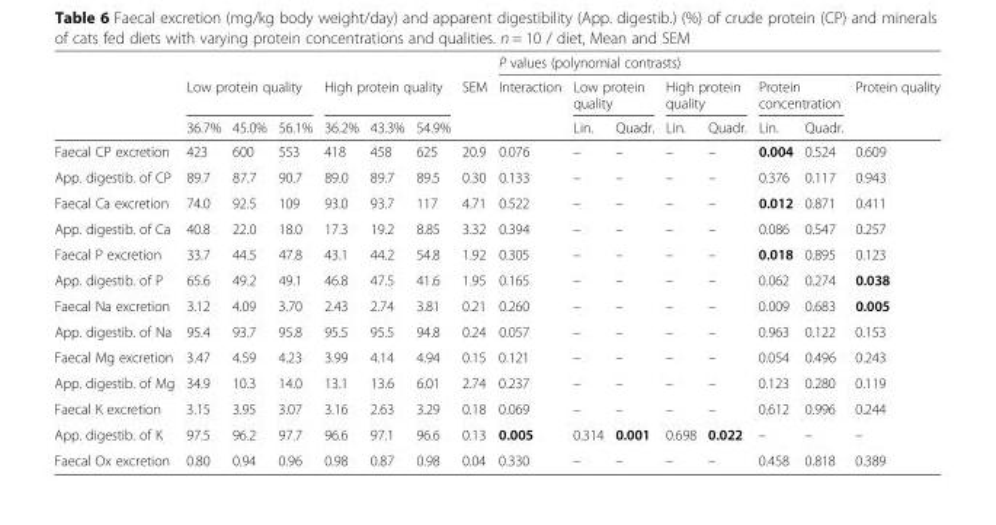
<table><thead><tr><td rowspan="3"></td><td></td><td></td><td></td><td></td><td></td><td></td><td rowspan="3">SEM</td><td colspan="8">P values (polynomial contrasts)</td></tr><tr><td colspan="3">Low protein quality</td><td colspan="3">High protein quality</td><td rowspan="2">Interaction</td><td colspan="2">Low protein quality</td><td colspan="2">High protein quality</td><td colspan="2">Protein concentration</td><td rowspan="2">Protein quality</td></tr><tr><td>36.7%</td><td>45.0%</td><td>56.1%</td><td>36.2%</td><td>43.3%</td><td>54.9%</td><td>Lin.</td><td>Quadr.</td><td>Lin.</td><td>Quadr.</td><td>Lin.</td><td>Quadr.</td></tr></thead><tbody><tr><td>Faecal CP excretion</td><td>423</td><td>600</td><td>553</td><td>418</td><td>458</td><td>625</td><td>20.9</td><td>0.076</td><td>–</td><td>–</td><td>–</td><td>–</td><td>0.004</td><td>0.524</td><td>0.609</td></tr><tr><td>App. digestib. of CP</td><td>89.7</td><td>87.7</td><td>90.7</td><td>89.0</td><td>89.7</td><td>89.5</td><td>0.30</td><td>0.133</td><td>–</td><td>–</td><td>–</td><td>–</td><td>0.376</td><td>0.117</td><td>0.943</td></tr><tr><td>Faecal Ca excretion</td><td>74.0</td><td>92.5</td><td>109</td><td>93.0</td><td>93.7</td><td>117</td><td>4.71</td><td>0.522</td><td>–</td><td>–</td><td>–</td><td>–</td><td>0.012</td><td>0.871</td><td>0.411</td></tr><tr><td>App. digestib. of Ca</td><td>40.8</td><td>22.0</td><td>18.0</td><td>17.3</td><td>19.2</td><td>8.85</td><td>3.32</td><td>0.394</td><td>–</td><td>–</td><td>–</td><td>–</td><td>0.086</td><td>0.547</td><td>0.257</td></tr><tr><td>Faecal P excretion</td><td>33.7</td><td>44.5</td><td>47.8</td><td>43.1</td><td>44.2</td><td>54.8</td><td>1.92</td><td>0.305</td><td>–</td><td>–</td><td>–</td><td>–</td><td>0.018</td><td>0.895</td><td>0.123</td></tr><tr><td>App. digestib. of P</td><td>65.6</td><td>49.2</td><td>49.1</td><td>46.8</td><td>47.5</td><td>41.6</td><td>1.95</td><td>0.165</td><td>–</td><td>–</td><td>–</td><td>–</td><td>0.062</td><td>0.274</td><td>0.038</td></tr><tr><td>Faecal Na excretion</td><td>3.12</td><td>4.09</td><td>3.70</td><td>2.43</td><td>2.74</td><td>3.81</td><td>0.21</td><td>0.260</td><td>–</td><td>–</td><td>–</td><td>–</td><td>0.009</td><td>0.683</td><td>0.005</td></tr><tr><td>App. digestib. of Na</td><td>95.4</td><td>93.7</td><td>95.8</td><td>95.5</td><td>95.5</td><td>94.8</td><td>0.24</td><td>0.057</td><td>–</td><td>–</td><td>–</td><td>–</td><td>0.963</td><td>0.122</td><td>0.153</td></tr><tr><td>Faecal Mg excretion</td><td>3.47</td><td>4.59</td><td>4.23</td><td>3.99</td><td>4.14</td><td>4.94</td><td>0.15</td><td>0.121</td><td>–</td><td>–</td><td>–</td><td>–</td><td>0.054</td><td>0.496</td><td>0.243</td></tr><tr><td>App. digestib. of Mg</td><td>34.9</td><td>10.3</td><td>14.0</td><td>13.1</td><td>13.6</td><td>6.01</td><td>2.74</td><td>0.237</td><td>–</td><td>–</td><td>–</td><td>–</td><td>0.123</td><td>0.280</td><td>0.119</td></tr><tr><td>Faecal K excretion</td><td>3.15</td><td>3.95</td><td>3.07</td><td>3.16</td><td>2.63</td><td>3.29</td><td>0.18</td><td>0.069</td><td>–</td><td>–</td><td>–</td><td>–</td><td>0.612</td><td>0.996</td><td>0.244</td></tr><tr><td>App. digestib. of K</td><td>97.5</td><td>96.2</td><td>97.7</td><td>96.6</td><td>97.1</td><td>96.6</td><td>0.13</td><td>0.005</td><td>0.314</td><td>0.001</td><td>0.698</td><td>0.022</td><td>–</td><td>–</td><td>–</td></tr><tr><td>Faecal Ox excretion</td><td>0.80</td><td>0.94</td><td>0.96</td><td>0.98</td><td>0.87</td><td>0.98</td><td>0.04</td><td>0.330</td><td>–</td><td>–</td><td>–</td><td>–</td><td>0.458</td><td>0.818</td><td>0.389</td></tr></tbody></table>